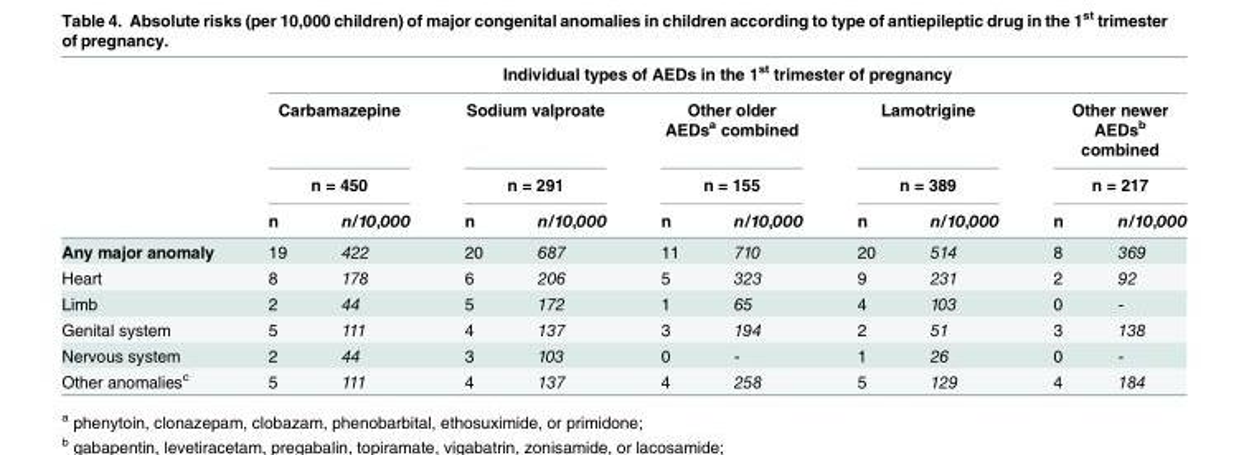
<table><thead><tr><td rowspan="4"></td><td colspan="10">Individual types of AEDs in the 1<sup>st</sup> trimester of pregnancy</td></tr><tr><td rowspan="2" colspan="2">Carbamazepine n = 450</td><td rowspan="2" colspan="2">Sodium valproate n = 291</td><td rowspan="2" colspan="2">Other older AEDs<sup>a</sup> combined n = 155</td><td rowspan="2" colspan="2">Lamotrigine n = 389</td><td rowspan="2" colspan="2">Other newer AEDs<sup>b</sup> combined n = 217</td></tr><tr></tr><tr><td>n</td><td>n/10,000</td><td>n</td><td>n/10,000</td><td>n</td><td>n/10,000</td><td>n</td><td>n/10,000</td><td>n</td><td>n/10,000</td></tr></thead><tbody><tr><td>Any major anomaly</td><td>19</td><td>422</td><td>20</td><td>687</td><td>11</td><td>710</td><td>20</td><td>514</td><td>8</td><td>369</td></tr><tr><td>Heart</td><td>8</td><td>178</td><td>6</td><td>206</td><td>5</td><td>323</td><td>9</td><td>231</td><td>2</td><td>92</td></tr><tr><td>Limb</td><td>2</td><td>44</td><td>5</td><td>172</td><td>1</td><td>65</td><td>4</td><td>103</td><td>0</td><td>-</td></tr><tr><td>Genital system</td><td>5</td><td>111</td><td>4</td><td>137</td><td>3</td><td>194</td><td>2</td><td>51</td><td>3</td><td>138</td></tr><tr><td>Nervous system</td><td>2</td><td>44</td><td>3</td><td>103</td><td>0</td><td>-</td><td>1</td><td>26</td><td>0</td><td>-</td></tr><tr><td>Other anomalies<sup>c</sup></td><td>5</td><td>111</td><td>4</td><td>137</td><td>4</td><td>258</td><td>5</td><td>129</td><td>4</td><td>184</td></tr></tbody></table>